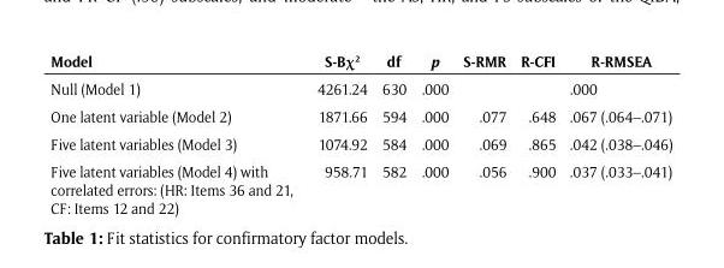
<table><thead><tr><td>Model</td><td>S-Bχ<sup>2</sup></td><td>df</td><td>p</td><td>S-RMR</td><td>R-CFI</td><td>R-RMSEA</td></tr></thead><tbody><tr><td>Null (Model 1)</td><td>4261.24</td><td>630</td><td>.000</td><td></td><td></td><td>.000</td></tr><tr><td>One latent variable (Model 2)</td><td>1871.66</td><td>594</td><td>.000</td><td>.077</td><td>.648</td><td>.067 (.064–.071)</td></tr><tr><td>Five latent variables (Model 3)</td><td>1074.92</td><td>584</td><td>.000</td><td>.069</td><td>.865</td><td>.042 (.038–.046)</td></tr><tr><td>Five latent variables (Model 4) with correlated errors: (HR: Items 36 and 21, CF: Items 12 and 22)</td><td>958.71</td><td>582</td><td>.000</td><td>.056</td><td>.900</td><td>.037 (.033–.041)</td></tr></tbody></table>